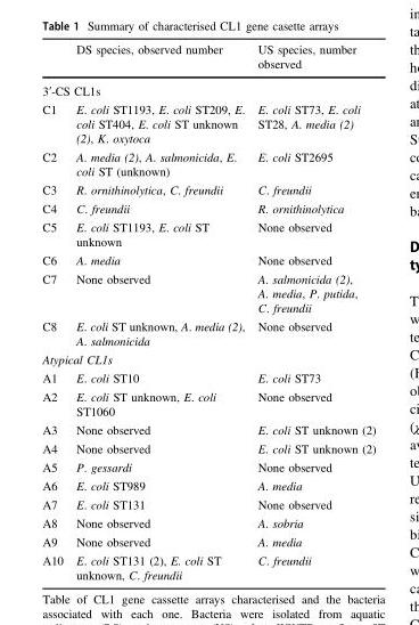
<table><thead><tr><td></td><td>DS species, observed number</td><td>US species, number observed</td></tr></thead><tbody><tr><td colspan="3">3′-CS CL1s</td></tr><tr><td>C1</td><td>E. coli ST1193, E. coli ST209, E. coli ST404, E. coli ST unknown (2), K. oxytoca</td><td>E. coli ST73, E. coli ST28, A. media (2)</td></tr><tr><td>C2</td><td>A. media (2), A. salmonicida, E. coli ST (unknown)</td><td>E. coli ST2695</td></tr><tr><td>C3</td><td>R. ornithinolytica, C. freundii</td><td>C. freundii</td></tr><tr><td>C4</td><td>C. freundii</td><td>R. ornithinolytica</td></tr><tr><td>C5</td><td>E. coli ST1193, E. coli ST unknown</td><td>None observed</td></tr><tr><td>C6</td><td>A. media</td><td>None observed</td></tr><tr><td>C7</td><td>None observed</td><td>A. salmonicida (2), A. media, P. putida, C. freundii</td></tr><tr><td>C8</td><td>E. coli ST unknown, A. media (2), A. salmonicida</td><td>None observed</td></tr><tr><td colspan="3">Atypical CL1s</td></tr><tr><td>A1</td><td>E. coli ST10</td><td>E. coli ST73</td></tr><tr><td>A2</td><td>E. coli ST unknown, E. coli ST1060</td><td>None observed</td></tr><tr><td>A3</td><td>None observed</td><td>E. coli ST unknown (2)</td></tr><tr><td>A4</td><td>None observed</td><td>E. coli ST unknown (2)</td></tr><tr><td>A5</td><td>P. gessardi</td><td>None observed</td></tr><tr><td>A6</td><td>E. coli ST989</td><td>A. media</td></tr><tr><td>A7</td><td>E. coli ST131</td><td>None observed</td></tr><tr><td>A8</td><td>None observed</td><td>A. sobria</td></tr><tr><td>A9</td><td>None observed</td><td>A. media</td></tr><tr><td>A10</td><td>E. coli ST131 (2), E. coli ST unknown, C. freundii</td><td>C. freundii</td></tr></tbody></table>